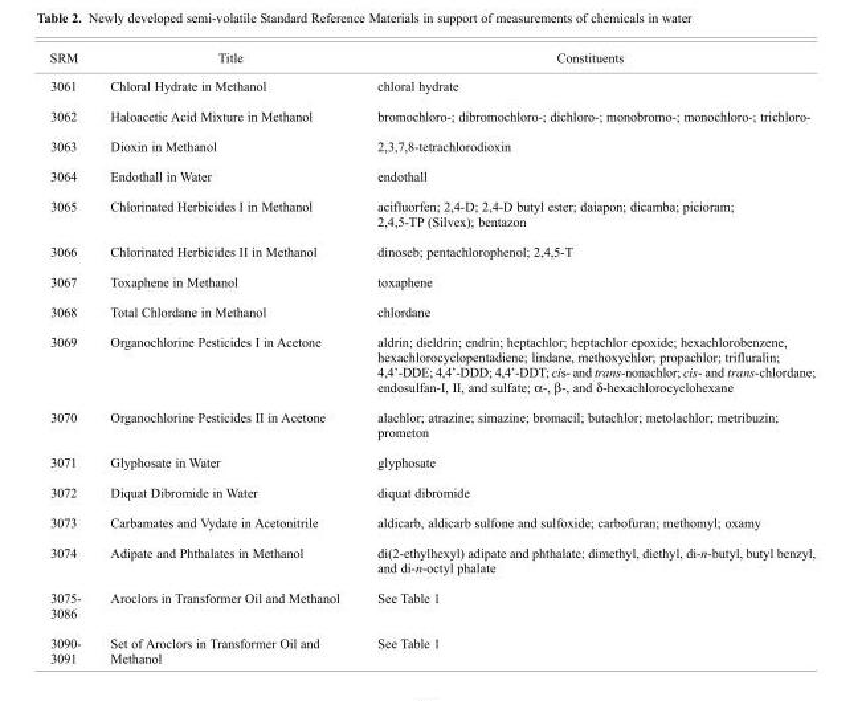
<table><thead><tr><td>SRM</td><td>Title</td><td>Constituents</td></tr></thead><tbody><tr><td>3061</td><td>Chloral Hydrate in Methanol</td><td>chloral hydrate</td></tr><tr><td>3062</td><td>Haloacetic Acid Mixture in Methanol</td><td>bromochloro-; dibromochloro-; dichloro-; monobromo-; monochloro-; trichloro-</td></tr><tr><td>3063</td><td>Dioxin in Methanol</td><td>2,3,7,8-tetrachlorodioxin</td></tr><tr><td>3064</td><td>Endothall in Water</td><td>endothall</td></tr><tr><td>3065</td><td>Chlorinated Herbicides I in Methanol</td><td>acifluorfen; 2,4-D; 2,4-D butyl ester; daiapon; dicamba; picioram; 2,4,5-TP (Silvex); bentazon</td></tr><tr><td>3066</td><td>Chlorinated Herbicides II in Methanol</td><td>dinoseb; pentachlorophenol; 2,4,5-T</td></tr><tr><td>3067</td><td>Toxaphene in Methanol</td><td>toxaphene</td></tr><tr><td>3068</td><td>Total Chlordane in Methanol</td><td>chlordane</td></tr><tr><td>3069</td><td>Organochlorine Pesticides I in Acetone</td><td>aldrin; dieldrin; endrin; heptachlor; heptachlor epoxide; hexachlorobenzene, hexachlorocyclopentadiene; lindane, methoxychlor; propachlor; trifluralin; 4,4’-DDE; 4,4’-DDD; 4,4’-DDT; cis- and trans-nonachlor; cis- and trans-chlordane; endosulfan-I, II, and sulfate; α-, β-, and δ-hexachlorocyclohexane</td></tr><tr><td>3070</td><td>Organochlorine Pesticides II in Acetone</td><td>alachlor; atrazine; simazine; bromacil; butachlor; metolachlor; metribuzin; prometon</td></tr><tr><td>3071</td><td>Glyphosate in Water</td><td>glyphosate</td></tr><tr><td>3072</td><td>Diquat Dibromide in Water</td><td>diquat dibromide</td></tr><tr><td>3073</td><td>Carbamates and Vydate in Acetonitrile</td><td>aldicarb, aldicarb sulfone and sulfoxide; carbofuran; methomyl; oxamy</td></tr><tr><td>3074</td><td>Adipate and Phthalates in Methanol</td><td>di(2-ethylhexyl) adipate and phthalate; dimethyl, diethyl, di-n-butyl, butyl benzyl, and di-n-octyl phalate</td></tr><tr><td>3075-</td><td>Aroclors in Transformer Oil and Methanol</td><td>See Table 1</td></tr><tr><td>3086 3090-</td><td>Set of Aroclors in Transformer Oil and</td><td>See Table 1</td></tr></tbody></table>